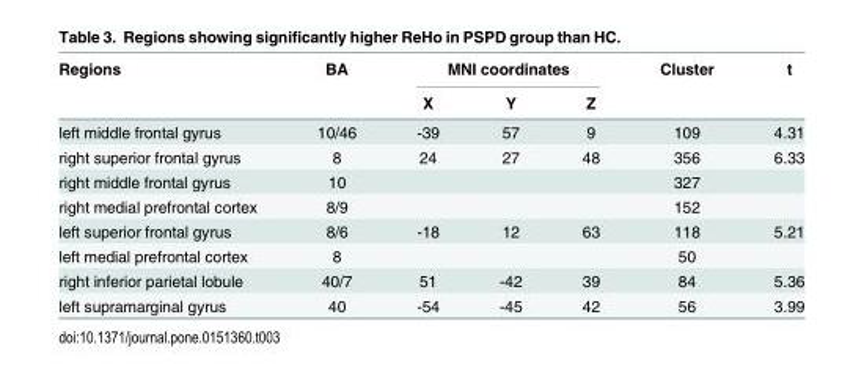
<table><thead><tr><td rowspan="2">Regions</td><td rowspan="2">BA</td><td colspan="3">MNI coordinates</td><td rowspan="2">Cluster</td><td rowspan="2">t</td></tr><tr><td>X</td><td>Y</td><td>Z</td></tr></thead><tbody><tr><td>left middle frontal gyrus</td><td>10/46</td><td>-39</td><td>57</td><td>9</td><td>109</td><td>4.31</td></tr><tr><td>right superior frontal gyrus</td><td>8</td><td>24</td><td>27</td><td>48</td><td>356</td><td>6.33</td></tr><tr><td>right middle frontal gyrus</td><td>10</td><td></td><td></td><td></td><td>327</td><td></td></tr><tr><td>right medial prefrontal cortex</td><td>8/9</td><td></td><td></td><td></td><td>152</td><td></td></tr><tr><td>left superior frontal gyrus</td><td>8/6</td><td>-18</td><td>12</td><td>63</td><td>118</td><td>5.21</td></tr><tr><td>left medial prefrontal cortex</td><td>8</td><td></td><td></td><td></td><td>50</td><td></td></tr><tr><td>right inferior parietal lobule</td><td>40/7</td><td>51</td><td>-42</td><td>39</td><td>84</td><td>5.36</td></tr><tr><td>left supramarginal gyrus</td><td>40</td><td>-54</td><td>-45</td><td>42</td><td>56</td><td>3.99</td></tr></tbody></table>